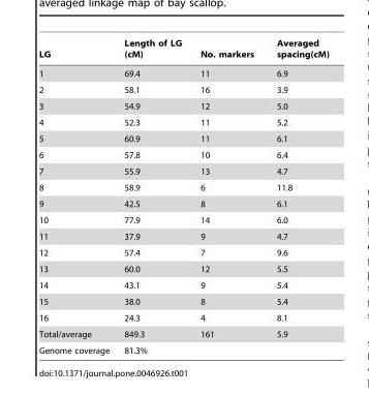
<table><thead><tr><td>LG</td><td>Length of LG (cM)</td><td>No. markers</td><td>Averaged spacing(cM)</td></tr></thead><tbody><tr><td>1</td><td>69.4</td><td>11</td><td>6.9</td></tr><tr><td>2</td><td>58.1</td><td>16</td><td>3.9</td></tr><tr><td>3</td><td>54.9</td><td>12</td><td>5.0</td></tr><tr><td>4</td><td>52.3</td><td>11</td><td>5.2</td></tr><tr><td>5</td><td>60.9</td><td>11</td><td>6.1</td></tr><tr><td>6</td><td>57.8</td><td>10</td><td>6.4</td></tr><tr><td>7</td><td>55.9</td><td>13</td><td>4.7</td></tr><tr><td>8</td><td>58.9</td><td>6</td><td>11.8</td></tr><tr><td>9</td><td>42.5</td><td>8</td><td>6.1</td></tr><tr><td>10</td><td>77.9</td><td>14</td><td>6.0</td></tr><tr><td>11</td><td>37.9</td><td>9</td><td>4.7</td></tr><tr><td>12</td><td>57.4</td><td>7</td><td>9.6</td></tr><tr><td>13</td><td>60.0</td><td>12</td><td>5.5</td></tr><tr><td>14</td><td>43.1</td><td>9</td><td>5.4</td></tr><tr><td>15</td><td>38.0</td><td>8</td><td>5.4</td></tr><tr><td>16</td><td>24.3</td><td>4</td><td>8.1</td></tr><tr><td>Total/average</td><td>849.3</td><td>161</td><td>5.9</td></tr><tr><td>Genome coverage</td><td>81.3%</td><td></td><td></td></tr></tbody></table>